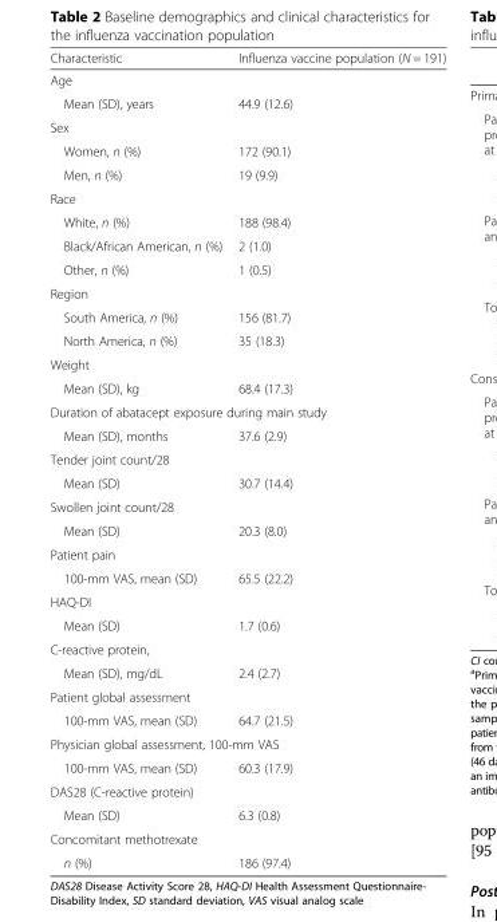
<table><thead><tr><td>Characteristic</td><td>Influenza vaccine population (N = 191)</td></tr></thead><tbody><tr><td colspan="2">Age</td></tr><tr><td>Mean (SD), years</td><td>44.9 (12.6)</td></tr><tr><td colspan="2">Sex</td></tr><tr><td>Women, n (%)</td><td>172 (90.1)</td></tr><tr><td>Men, n (%)</td><td>19 (9.9)</td></tr><tr><td colspan="2">Race</td></tr><tr><td>White, n (%)</td><td>188 (98.4)</td></tr><tr><td>Black/African American, n (%)</td><td>2 (1.0)</td></tr><tr><td>Other, n (%)</td><td>1 (0.5)</td></tr><tr><td colspan="2">Region</td></tr><tr><td>South America, n (%)</td><td>156 (81.7)</td></tr><tr><td>North America, n (%)</td><td>35 (18.3)</td></tr><tr><td colspan="2">Weight</td></tr><tr><td>Mean (SD), kg</td><td>68.4 (17.3)</td></tr><tr><td colspan="2">Duration of abatacept exposure during main study</td></tr><tr><td>Mean (SD), months</td><td>37.6 (2.9)</td></tr><tr><td colspan="2">Tender joint count/28</td></tr><tr><td>Mean (SD)</td><td>30.7 (14.4)</td></tr><tr><td colspan="2">Swollen joint count/28</td></tr><tr><td>Mean (SD)</td><td>20.3 (8.0)</td></tr><tr><td colspan="2">Patient pain</td></tr><tr><td>100-mm VAS, mean (SD)</td><td>65.5 (22.2)</td></tr><tr><td colspan="2">HAQ-DI</td></tr><tr><td>Mean (SD)</td><td>1.7 (0.6)</td></tr><tr><td colspan="2">C-reactive protein,</td></tr><tr><td>Mean (SD), mg/dL</td><td>2.4 (2.7)</td></tr><tr><td colspan="2">Patient global assessment</td></tr><tr><td>100-mm VAS, mean (SD)</td><td>64.7 (21.5)</td></tr><tr><td colspan="2">Physician global assessment, 100-mm VAS</td></tr><tr><td>100-mm VAS, mean (SD)</td><td>60.3 (17.9)</td></tr><tr><td colspan="2">DAS28 (C-reactive protein)</td></tr><tr><td>Mean (SD)</td><td>6.3 (0.8)</td></tr><tr><td colspan="2">Concomitant methotrexate</td></tr><tr><td>n (%)</td><td>186 (97.4)</td></tr></tbody></table>